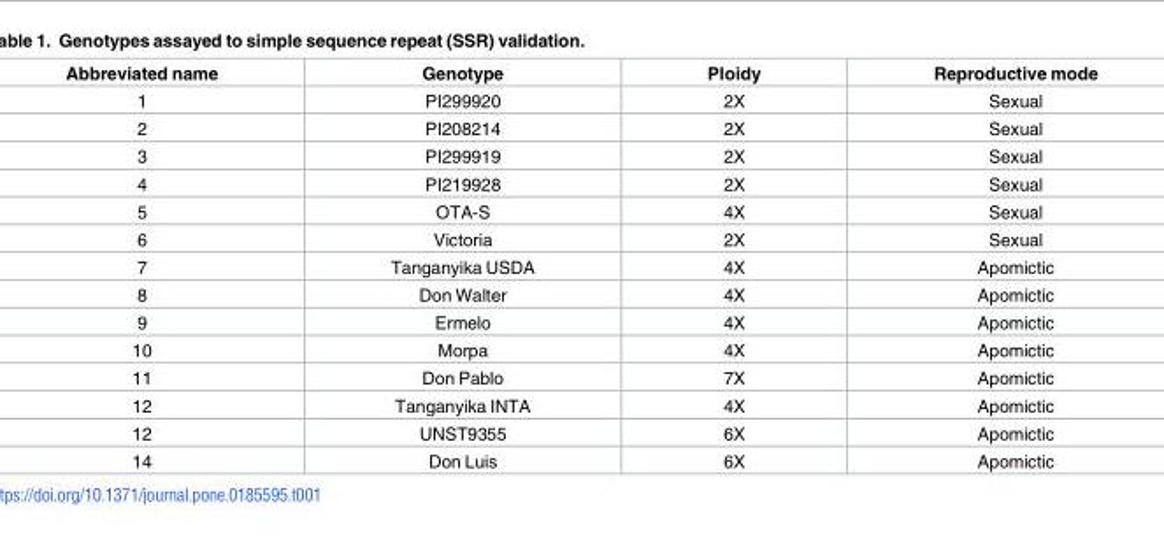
<table><thead><tr><td>Abbreviated name</td><td>Genotype</td><td>Ploidy</td><td>Reproductive mode</td></tr></thead><tbody><tr><td>1</td><td>PI299920</td><td>2X</td><td>Sexual</td></tr><tr><td>2</td><td>PI208214</td><td>2X</td><td>Sexual</td></tr><tr><td>3</td><td>PI299919</td><td>2X</td><td>Sexual</td></tr><tr><td>4</td><td>PI219928</td><td>2X</td><td>Sexual</td></tr><tr><td>5</td><td>OTA-S</td><td>4X</td><td>Sexual</td></tr><tr><td>6</td><td>Victoria</td><td>2X</td><td>Sexual</td></tr><tr><td>7</td><td>Tanganyika USDA</td><td>4X</td><td>Apomictic</td></tr><tr><td>8</td><td>Don Walter</td><td>4X</td><td>Apomictic</td></tr><tr><td>9</td><td>Ermelo</td><td>4X</td><td>Apomictic</td></tr><tr><td>10</td><td>Morpa</td><td>4X</td><td>Apomictic</td></tr><tr><td>11</td><td>Don Pablo</td><td>7X</td><td>Apomictic</td></tr><tr><td>12</td><td>Tanganyika INTA</td><td>4X</td><td>Apomictic</td></tr><tr><td>12</td><td>UNST9355</td><td>6X</td><td>Apomictic</td></tr><tr><td>14</td><td>Don Luis</td><td>6X</td><td>Apomictic</td></tr></tbody></table>